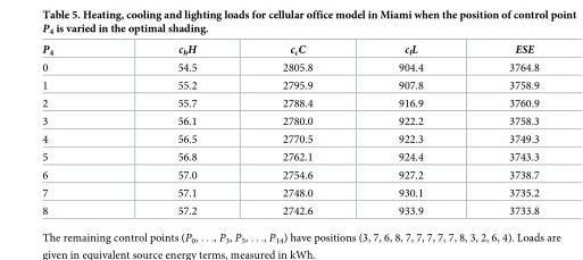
<table><thead><tr><td>P<sub>4</sub></td><td>c<sub>h</sub>H</td><td>c<sub>c</sub>C</td><td>c<sub>l</sub>L</td><td>ESE</td></tr></thead><tbody><tr><td>0</td><td>54.5</td><td>2805.8</td><td>904.4</td><td>3764.8</td></tr><tr><td>1</td><td>55.2</td><td>2795.9</td><td>907.8</td><td>3758.9</td></tr><tr><td>2</td><td>55.7</td><td>2788.4</td><td>916.9</td><td>3760.9</td></tr><tr><td>3</td><td>56.1</td><td>2780.0</td><td>922.2</td><td>3758.3</td></tr><tr><td>4</td><td>56.5</td><td>2770.5</td><td>922.3</td><td>3749.3</td></tr><tr><td>5</td><td>56.8</td><td>2762.1</td><td>924.4</td><td>3743.3</td></tr><tr><td>6</td><td>57.0</td><td>2754.6</td><td>927.2</td><td>3738.7</td></tr><tr><td>7</td><td>57.1</td><td>2748.0</td><td>930.1</td><td>3735.2</td></tr><tr><td>8</td><td>57.2</td><td>2742.6</td><td>933.9</td><td>3733.8</td></tr></tbody></table>